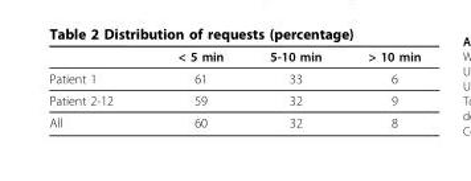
<table><thead><tr><td></td><td>&lt; 5 min</td><td>5-10 min</td><td>&gt; 10 min</td></tr></thead><tbody><tr><td>Patient 1</td><td>61</td><td>33</td><td>6</td></tr><tr><td>Patient 2-12</td><td>59</td><td>32</td><td>9</td></tr><tr><td>All</td><td>60</td><td>32</td><td>8</td></tr></tbody></table>